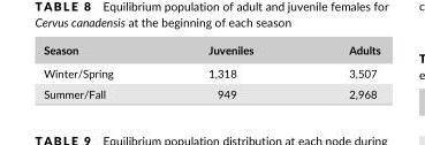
<table><thead><tr><td>Season</td><td>Juveniles</td><td>Adults</td></tr></thead><tbody><tr><td>Winter/Spring</td><td>1,318</td><td>3,507</td></tr><tr><td>Summer/Fall</td><td>949</td><td>2,968</td></tr></tbody></table>